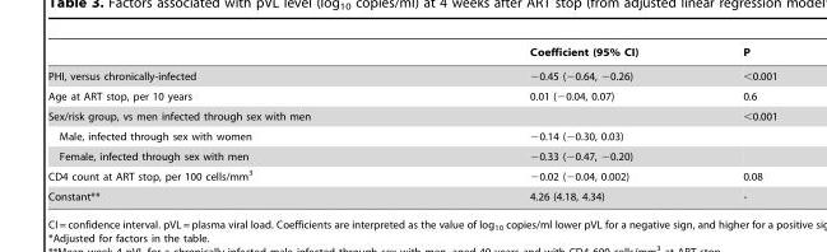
<table><thead><tr><td></td><td>Coefficient (95% CI)</td><td>P</td></tr></thead><tbody><tr><td>PHI, versus chronically-infected</td><td>−0.45 (−0.64, −0.26)</td><td>&lt;0.001</td></tr><tr><td>Age at ART stop, per 10 years</td><td>0.01 (−0.04, 0.07)</td><td>0.6</td></tr><tr><td>Sex/risk group, vs men infected through sex with men</td><td></td><td>&lt;0.001</td></tr><tr><td>Male, infected through sex with women</td><td>−0.14 (−0.30, 0.03)</td><td></td></tr><tr><td>Female, infected through sex with men</td><td>−0.33 (−0.47, −0.20)</td><td></td></tr><tr><td>CD4 count at ART stop, per 100 cells/mm<sup>3</sup></td><td>−0.02 (−0.04, 0.002)</td><td>0.08</td></tr><tr><td>Constant**</td><td>4.26 (4.18, 4.34)</td><td>-</td></tr></tbody></table>